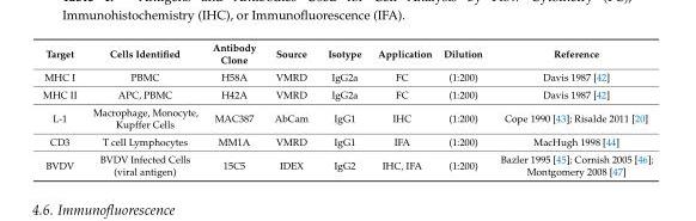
<table><thead><tr><td>Target</td><td>Cells Identified</td><td>Antibody Clone</td><td>Source</td><td>Isotype</td><td>Application</td><td>Dilution</td><td>Reference</td></tr></thead><tbody><tr><td>MHC I</td><td>PBMC</td><td>H58A</td><td>VMRD</td><td>IgG2a</td><td>FC</td><td>(1:200)</td><td>Davis 1987 [42]</td></tr><tr><td>MHC II</td><td>APC, PBMC</td><td>H42A</td><td>VMRD</td><td>IgG2a</td><td>FC</td><td>(1:200)</td><td>Davis 1987 [42]</td></tr><tr><td>L-1</td><td>Macrophage, Monocyte, Kupffer Cells</td><td>MAC387</td><td>AbCam</td><td>IgG1</td><td>IHC</td><td>(1:200)</td><td>Cope 1990 [43]; Risalde 2011 [20]</td></tr><tr><td>CD3</td><td>T cell Lymphocytes</td><td>MM1A</td><td>VMRD</td><td>IgG1</td><td>IFA</td><td>(1:200)</td><td>MacHugh 1998 [44]</td></tr><tr><td>BVDV</td><td>BVDV Infected Cells (viral antigen)</td><td>15C5</td><td>IDEX</td><td>IgG2</td><td>IHC, IFA</td><td>(1:200)</td><td>Bazler 1995 [45]; Cornish 2005 [46]; Montgomery 2008 [47]</td></tr></tbody></table>